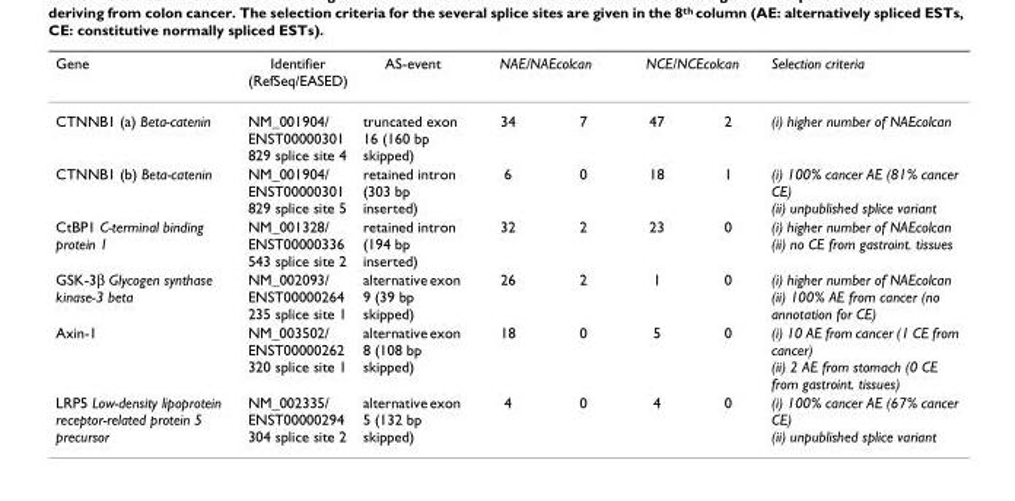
<table><thead><tr><td rowspan="2">Gene CTNNB1 (a) Beta-catenin</td><td rowspan="2">Identifier (RefSeq/EASED) NM_001904/ ENST00000301 829 splice site 4</td><td rowspan="2">AS-event truncated exon 16 (160 bp skipped)</td><td colspan="2">NAE/NAEcolcan</td><td colspan="2">NCE/NCEcolcan</td><td rowspan="2">Selection criteria (i) higher number of NAEcolcan</td></tr><tr><td>34</td><td>7</td><td>47</td><td>2</td></tr></thead><tbody><tr><td>CTNNB1 (b) Beta-catenin</td><td>NM_001904/ ENST00000301 829 splice site 5</td><td>retained intron (303 bp inserted)</td><td>6</td><td>0</td><td>18</td><td>1</td><td>(i) 100% cancer AE (81% cancer CE) (ii) unpublished splice variant</td></tr><tr><td>CtBP1 C-terminal binding protein 1</td><td>NM_001328/ ENST00000336 543 splice site 2</td><td>retained intron (194 bp inserted)</td><td>32</td><td>2</td><td>23</td><td>0</td><td>(i) higher number of NAEcolcan (ii) no CE from gastroint. tissues</td></tr><tr><td>GSK-3β Glycogen synthase kinase-3 beta</td><td>NM_002093/ ENST00000264 235 splice site 1</td><td>alternative exon 9 (39 bp skipped)</td><td>26</td><td>2</td><td>1</td><td>0</td><td>(i) higher number of NAEcolcan (ii) 100% AE from cancer (no annotation for CE)</td></tr><tr><td>Axin-1</td><td>NM_003502/ ENST00000262 320 splice site 1</td><td>alternative exon 8 (108 bp skipped)</td><td>18</td><td>0</td><td>5</td><td>0</td><td>(i) 10 AE from cancer (1 CE from cancer) (ii) 2 AE from stomach (0 CE from gastroint. tissues)</td></tr><tr><td>LRP5 Low-density lipoprotein receptor-related protein 5 precursor</td><td>NM_002335/ ENST00000294 304 splice site 2</td><td>alternative exon 5 (132 bp skipped)</td><td>4</td><td>0</td><td>4</td><td>0</td><td>(i) 100% cancer AE (67% cancer CE) (ii) unpublished splice variant</td></tr></tbody></table>